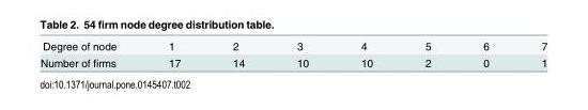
<table><tbody><tr><td>Degree of node</td><td>1</td><td>2</td><td>3</td><td>4</td><td>5</td><td>6</td><td>7</td></tr><tr><td>Number of firms</td><td>17</td><td>14</td><td>10</td><td>10</td><td>2</td><td>0</td><td>1</td></tr></tbody></table>